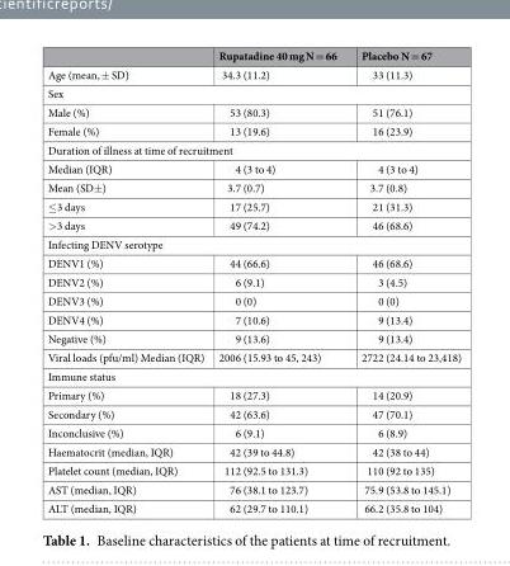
<table><thead><tr><td></td><td>Rupatadine 40 mg N = 66</td><td>Placebo N = 67</td></tr></thead><tbody><tr><td>Age (mean, ± SD)</td><td>34.3 (11.2)</td><td>33 (11.3)</td></tr><tr><td colspan="3">Sex</td></tr><tr><td>Male (%)</td><td>53 (80.3)</td><td>51 (76.1)</td></tr><tr><td>Female (%)</td><td>13 (19.6)</td><td>16 (23.9)</td></tr><tr><td colspan="3">Duration of illness at time of recruitment</td></tr><tr><td>Median (IQR)</td><td>4 (3 to 4)</td><td>4 (3 to 4)</td></tr><tr><td>Mean (SD±)</td><td>3.7 (0.7)</td><td>3.7 (0.8)</td></tr><tr><td>≤3 days</td><td>17 (25.7)</td><td>21 (31.3)</td></tr><tr><td>&gt;3 days</td><td>49 (74.2)</td><td>46 (68.6)</td></tr><tr><td colspan="3">Infecting DENV serotype</td></tr><tr><td>DENV1 (%)</td><td>44 (66.6)</td><td>46 (68.6)</td></tr><tr><td>DENV2 (%)</td><td>6 (9.1)</td><td>3 (4.5)</td></tr><tr><td>DENV3 (%)</td><td>0 (0)</td><td>0 (0)</td></tr><tr><td>DENV4 (%)</td><td>7 (10.6)</td><td>9 (13.4)</td></tr><tr><td>Negative (%)</td><td>9 (13.6)</td><td>9 (13.4)</td></tr><tr><td>Viral loads (pfu/ml) Median (IQR)</td><td>2006 (15.93 to 45, 243)</td><td>2722 (24.14 to 23,418)</td></tr><tr><td colspan="3">Immune status</td></tr><tr><td>Primary (%)</td><td>18 (27.3)</td><td>14 (20.9)</td></tr><tr><td>Secondary (%)</td><td>42 (63.6)</td><td>47 (70.1)</td></tr><tr><td>Inconclusive (%)</td><td>6 (9.1)</td><td>6 (8.9)</td></tr><tr><td>Haematocrit (median, IQR)</td><td>42 (39 to 44.8)</td><td>42 (38 to 44)</td></tr><tr><td>Platelet count (median, IQR)</td><td>112 (92.5 to 131.3)</td><td>110 (92 to 135)</td></tr><tr><td>AST (median, IQR)</td><td>76 (38.1 to 123.7)</td><td>75.9 (53.8 to 145.1)</td></tr><tr><td>ALT (median, IQR)</td><td>62 (29.7 to 110.1)</td><td>66.2 (35.8 to 104)</td></tr></tbody></table>